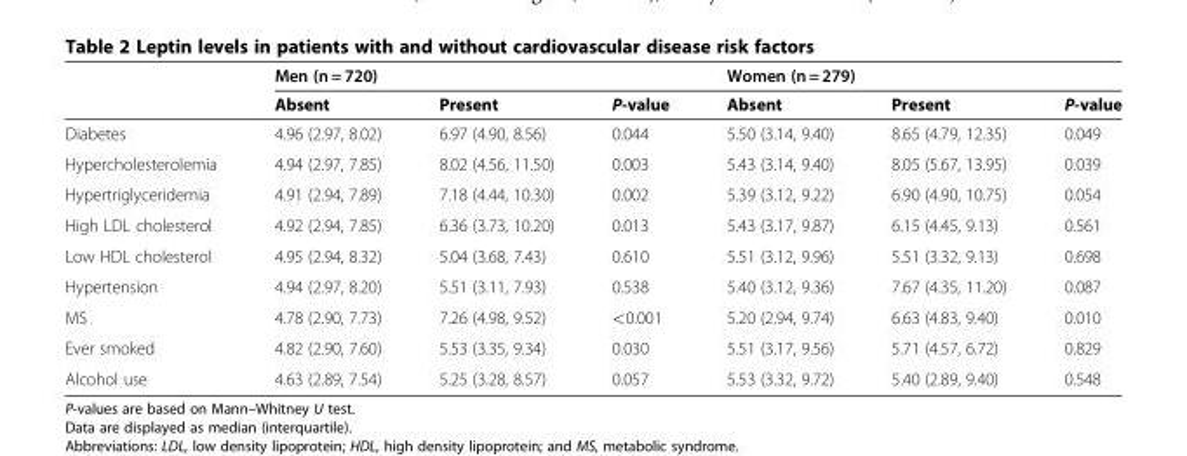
<table><thead><tr><td rowspan="2"></td><td colspan="3">Men (n = 720)</td><td colspan="3">Women (n = 279)</td></tr><tr><td>Absent</td><td>Present</td><td>P-value</td><td>Absent</td><td>Present</td><td>P-value</td></tr></thead><tbody><tr><td>Diabetes</td><td>4.96 (2.97, 8.02)</td><td>6.97 (4.90, 8.56)</td><td>0.044</td><td>5.50 (3.14, 9.40)</td><td>8.65 (4.79, 12.35)</td><td>0.049</td></tr><tr><td>Hypercholesterolemia</td><td>4.94 (2.97, 7.85)</td><td>8.02 (4.56, 11.50)</td><td>0.003</td><td>5.43 (3.14, 9.40)</td><td>8.05 (5.67, 13.95)</td><td>0.039</td></tr><tr><td>Hypertriglyceridemia</td><td>4.91 (2.94, 7.89)</td><td>7.18 (4.44, 10.30)</td><td>0.002</td><td>5.39 (3.12, 9.22)</td><td>6.90 (4.90, 10.75)</td><td>0.054</td></tr><tr><td>High LDL cholesterol</td><td>4.92 (2.94, 7.85)</td><td>6.36 (3.73, 10.20)</td><td>0.013</td><td>5.43 (3.17, 9.87)</td><td>6.15 (4.45, 9.13)</td><td>0.561</td></tr><tr><td>Low HDL cholesterol</td><td>4.95 (2.94, 8.32)</td><td>5.04 (3.68, 7.43)</td><td>0.610</td><td>5.51 (3.12, 9.96)</td><td>5.51 (3.32, 9.13)</td><td>0.698</td></tr><tr><td>Hypertension</td><td>4.94 (2.97, 8.20)</td><td>5.51 (3.11, 7.93)</td><td>0.538</td><td>5.40 (3.12, 9.36)</td><td>7.67 (4.35, 11.20)</td><td>0.087</td></tr><tr><td>MS</td><td>4.78 (2.90, 7.73)</td><td>7.26 (4.98, 9.52)</td><td>&lt;0.001</td><td>5.20 (2.94, 9.74)</td><td>6.63 (4.83, 9.40)</td><td>0.010</td></tr><tr><td>Ever smoked</td><td>4.82 (2.90, 7.60)</td><td>5.53 (3.35, 9.34)</td><td>0.030</td><td>5.51 (3.17, 9.56)</td><td>5.71 (4.57, 6.72)</td><td>0.829</td></tr><tr><td>Alcohol use</td><td>4.63 (2.89, 7.54)</td><td>5.25 (3.28, 8.57)</td><td>0.057</td><td>5.53 (3.32, 9.72)</td><td>5.40 (2.89, 9.40)</td><td>0.548</td></tr></tbody></table>